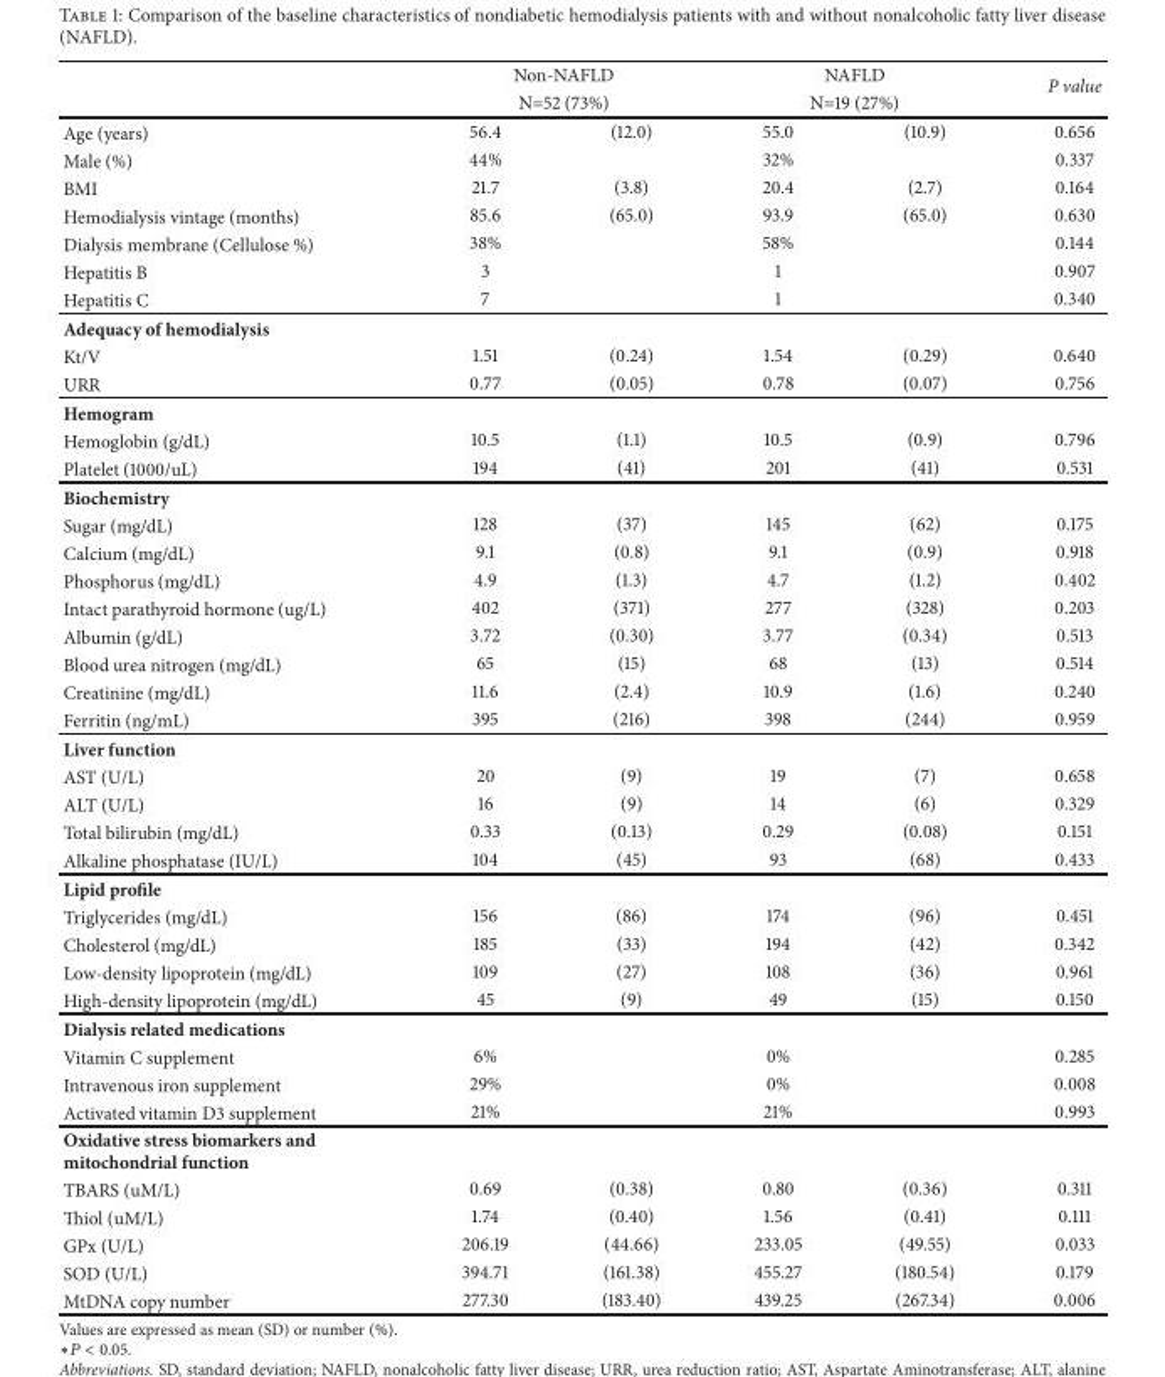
<table><thead><tr><td rowspan="3">Age (years)</td><td rowspan="2" colspan="2">Non-NAFLD N=52 (73%)</td><td rowspan="2" colspan="2">NAFLD N=19 (27%)</td><td rowspan="3">P value 0.656</td></tr><tr></tr><tr><td>56.4</td><td>(12.0)</td><td>55.0</td><td>(10.9)</td></tr></thead><tbody><tr><td>Male (%)</td><td>44%</td><td></td><td>32%</td><td></td><td>0.337</td></tr><tr><td>BMI</td><td>21.7</td><td>(3.8)</td><td>20.4</td><td>(2.7)</td><td>0.164</td></tr><tr><td>Hemodialysis vintage (months)</td><td>85.6</td><td>(65.0)</td><td>93.9</td><td>(65.0)</td><td>0.630</td></tr><tr><td>Dialysis membrane (Cellulose %)</td><td>38%</td><td></td><td>58%</td><td></td><td>0.144</td></tr><tr><td>Hepatitis B</td><td>3</td><td></td><td>1</td><td></td><td>0.907</td></tr><tr><td>Hepatitis C</td><td>7</td><td></td><td>1</td><td></td><td>0.340</td></tr><tr><td colspan="6">Adequacy of hemodialysis</td></tr><tr><td>Kt/V</td><td>1.51</td><td>(0.24)</td><td>1.54</td><td>(0.29)</td><td>0.640</td></tr><tr><td>URR</td><td>0.77</td><td>(0.05)</td><td>0.78</td><td>(0.07)</td><td>0.756</td></tr><tr><td colspan="6">Hemogram</td></tr><tr><td>Hemoglobin (g/dL)</td><td>10.5</td><td>(1.1)</td><td>10.5</td><td>(0.9)</td><td>0.796</td></tr><tr><td>Platelet (1000/uL)</td><td>194</td><td>(41)</td><td>201</td><td>(41)</td><td>0.531</td></tr><tr><td colspan="6">Biochemistry</td></tr><tr><td>Sugar (mg/dL)</td><td>128</td><td>(37)</td><td>145</td><td>(62)</td><td>0.175</td></tr><tr><td>Calcium (mg/dL)</td><td>9.1</td><td>(0.8)</td><td>9.1</td><td>(0.9)</td><td>0.918</td></tr><tr><td>Phosphorus (mg/dL)</td><td>4.9</td><td>(1.3)</td><td>4.7</td><td>(1.2)</td><td>0.402</td></tr><tr><td>Intact parathyroid hormone (ug/L)</td><td>402</td><td>(371)</td><td>277</td><td>(328)</td><td>0.203</td></tr><tr><td>Albumin (g/dL)</td><td>3.72</td><td>(0.30)</td><td>3.77</td><td>(0.34)</td><td>0.513</td></tr><tr><td>Blood urea nitrogen (mg/dL)</td><td>65</td><td>(15)</td><td>68</td><td>(13)</td><td>0.514</td></tr><tr><td>Creatinine (mg/dL)</td><td>11.6</td><td>(2.4)</td><td>10.9</td><td>(1.6)</td><td>0.240</td></tr><tr><td>Ferritin (ng/mL)</td><td>395</td><td>(216)</td><td>398</td><td>(244)</td><td>0.959</td></tr><tr><td colspan="6">Liver function</td></tr><tr><td>AST (U/L)</td><td>20</td><td>(9)</td><td>19</td><td>(7)</td><td>0.658</td></tr><tr><td>ALT (U/L)</td><td>16</td><td>(9)</td><td>14</td><td>(6)</td><td>0.329</td></tr><tr><td>Total bilirubin (mg/dL)</td><td>0.33</td><td>(0.13)</td><td>0.29</td><td>(0.08)</td><td>0.151</td></tr><tr><td>Alkaline phosphatase (IU/L)</td><td>104</td><td>(45)</td><td>93</td><td>(68)</td><td>0.433</td></tr><tr><td colspan="6">Lipid profile</td></tr><tr><td>Triglycerides (mg/dL)</td><td>156</td><td>(86)</td><td>174</td><td>(96)</td><td>0.451</td></tr><tr><td>Cholesterol (mg/dL)</td><td>185</td><td>(33)</td><td>194</td><td>(42)</td><td>0.342</td></tr><tr><td>Low-density lipoprotein (mg/dL)</td><td>109</td><td>(27)</td><td>108</td><td>(36)</td><td>0.961</td></tr><tr><td>High-density lipoprotein (mg/dL)</td><td>45</td><td>(9)</td><td>49</td><td>(15)</td><td>0.150</td></tr><tr><td colspan="6">Dialysis related medications</td></tr><tr><td>Vitamin C supplement</td><td>6%</td><td></td><td>0%</td><td></td><td>0.285</td></tr><tr><td>Intravenous iron supplement</td><td>29%</td><td></td><td>0%</td><td></td><td>0.008</td></tr><tr><td>Activated vitamin D3 supplement</td><td>21%</td><td></td><td>21%</td><td></td><td>0.993</td></tr><tr><td colspan="6">Oxidative stress biomarkers and mitochondrial function</td></tr><tr><td>TBARS (uM/L)</td><td>0.69</td><td>(0.38)</td><td>0.80</td><td>(0.36)</td><td>0.311</td></tr><tr><td>Thiol (uM/L)</td><td>1.74</td><td>(0.40)</td><td>1.56</td><td>(0.41)</td><td>0.111</td></tr><tr><td>GPx (U/L)</td><td>206.19</td><td>(44.66)</td><td>233.05</td><td>(49.55)</td><td>0.033</td></tr><tr><td>SOD (U/L)</td><td>394.71</td><td>(161.38)</td><td>455.27</td><td>(180.54)</td><td>0.179</td></tr><tr><td>MtDNA copy number</td><td>277.30</td><td>(183.40)</td><td>439.25</td><td>(267.34)</td><td>0.006</td></tr></tbody></table>